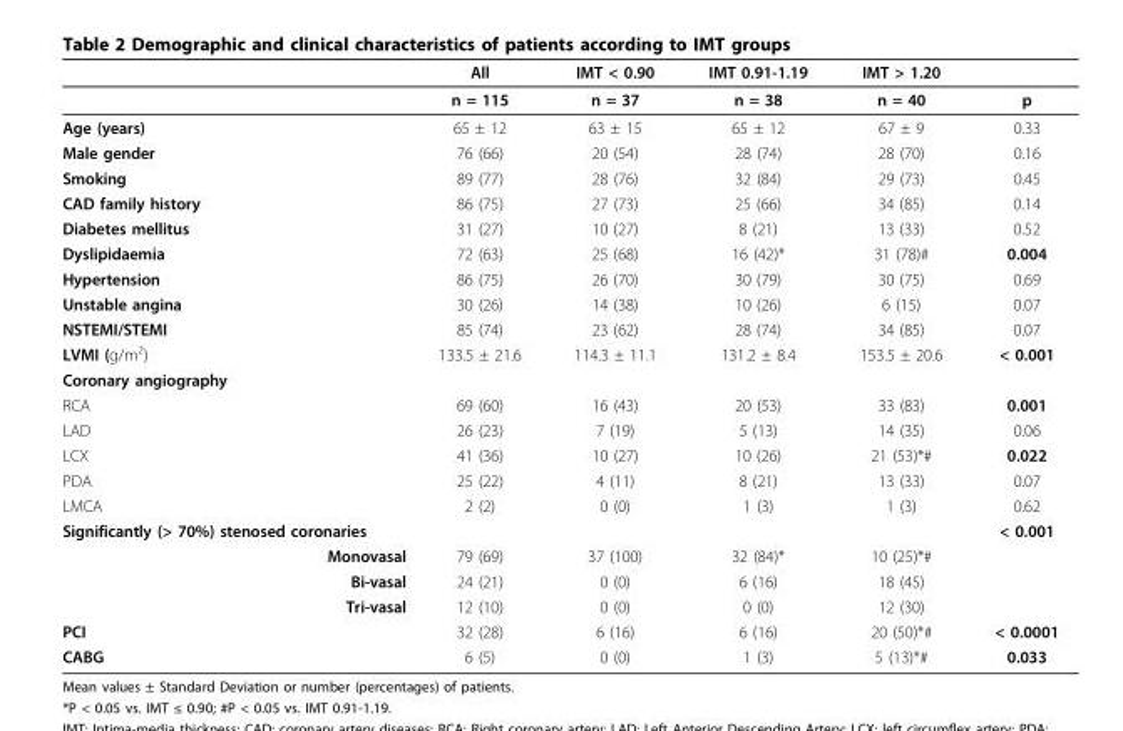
<table><thead><tr><td></td><td>All</td><td>IMT &lt; 0.90</td><td>IMT 0.91-1.19</td><td>IMT &gt; 1.20</td><td></td></tr></thead><tbody><tr><td></td><td>n = 115</td><td>n = 37</td><td>n = 38</td><td>n = 40</td><td>p</td></tr><tr><td>Age (years)</td><td>65 ± 12</td><td>63 ± 15</td><td>65 ± 12</td><td>67 ± 9</td><td>0.33</td></tr><tr><td>Male gender</td><td>76 (66)</td><td>20 (54)</td><td>28 (74)</td><td>28 (70)</td><td>0.16</td></tr><tr><td>Smoking</td><td>89 (77)</td><td>28 (76)</td><td>32 (84)</td><td>29 (73)</td><td>0.45</td></tr><tr><td>CAD family history</td><td>86 (75)</td><td>27 (73)</td><td>25 (66)</td><td>34 (85)</td><td>0.14</td></tr><tr><td>Diabetes mellitus</td><td>31 (27)</td><td>10 (27)</td><td>8 (21)</td><td>13 (33)</td><td>0.52</td></tr><tr><td>Dyslipidaemia</td><td>72 (63)</td><td>25 (68)</td><td>16 (42)*</td><td>31 (78)#</td><td>0.004</td></tr><tr><td>Hypertension</td><td>86 (75)</td><td>26 (70)</td><td>30 (79)</td><td>30 (75)</td><td>0.69</td></tr><tr><td>Unstable angina</td><td>30 (26)</td><td>14 (38)</td><td>10 (26)</td><td>6 (15)</td><td>0.07</td></tr><tr><td>NSTEMI/STEMI</td><td>85 (74)</td><td>23 (62)</td><td>28 (74)</td><td>34 (85)</td><td>0.07</td></tr><tr><td>LVMI (g/m<sup>2</sup>)</td><td>133.5 ± 21.6</td><td>114.3 ± 11.1</td><td>131.2 ± 8.4</td><td>153.5 ± 20.6</td><td>&lt; 0.001</td></tr><tr><td colspan="6">Coronary angiography</td></tr><tr><td>RCA</td><td>69 (60)</td><td>16 (43)</td><td>20 (53)</td><td>33 (83)</td><td>0.001</td></tr><tr><td>LAD</td><td>26 (23)</td><td>7 (19)</td><td>5 (13)</td><td>14 (35)</td><td>0.06</td></tr><tr><td>LCX</td><td>41 (36)</td><td>10 (27)</td><td>10 (26)</td><td>21 (53)*#</td><td>0.022</td></tr><tr><td>PDA</td><td>25 (22)</td><td>4 (11)</td><td>8 (21)</td><td>13 (33)</td><td>0.07</td></tr><tr><td>LMCA</td><td>2 (2)</td><td>0 (0)</td><td>1 (3)</td><td>1 (3)</td><td>0.62</td></tr><tr><td>Significantly (&gt; 70%) stenosed coronaries</td><td></td><td></td><td></td><td></td><td>&lt; 0.001</td></tr><tr><td>Monovasal</td><td>79 (69)</td><td>37 (100)</td><td>32 (84)*</td><td>10 (25)*#</td><td></td></tr><tr><td>Bi-vasal</td><td>24 (21)</td><td>0 (0)</td><td>6 (16)</td><td>18 (45)</td><td></td></tr><tr><td>Tri-vasal</td><td>12 (10)</td><td>0 (0)</td><td>0 (0)</td><td>12 (30)</td><td></td></tr><tr><td>PCI</td><td>32 (28)</td><td>6 (16)</td><td>6 (16)</td><td>20 (50)*#</td><td>&lt; 0.0001</td></tr><tr><td>CABG</td><td>6 (5)</td><td>0 (0)</td><td>1 (3)</td><td>5 (13)*#</td><td>0.033</td></tr></tbody></table>